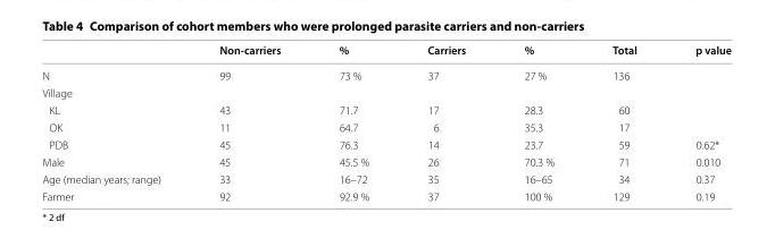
<table><thead><tr><td></td><td>Non-carriers</td><td>%</td><td>Carriers</td><td>%</td><td>Total</td><td>p value</td></tr></thead><tbody><tr><td>N</td><td>99</td><td>73 %</td><td>37</td><td>27 %</td><td>136</td><td></td></tr><tr><td colspan="7">Village</td></tr><tr><td>KL</td><td>43</td><td>71.7</td><td>17</td><td>28.3</td><td>60</td><td></td></tr><tr><td>OK</td><td>11</td><td>64.7</td><td>6</td><td>35.3</td><td>17</td><td></td></tr><tr><td>PDB</td><td>45</td><td>76.3</td><td>14</td><td>23.7</td><td>59</td><td>0.62*</td></tr><tr><td>Male</td><td>45</td><td>45.5 %</td><td>26</td><td>70.3 %</td><td>71</td><td>0.010</td></tr><tr><td>Age (median years; range)</td><td>33</td><td>16–72</td><td>35</td><td>16–65</td><td>34</td><td>0.37</td></tr><tr><td>Farmer</td><td>92</td><td>92.9 %</td><td>37</td><td>100 %</td><td>129</td><td>0.19</td></tr></tbody></table>